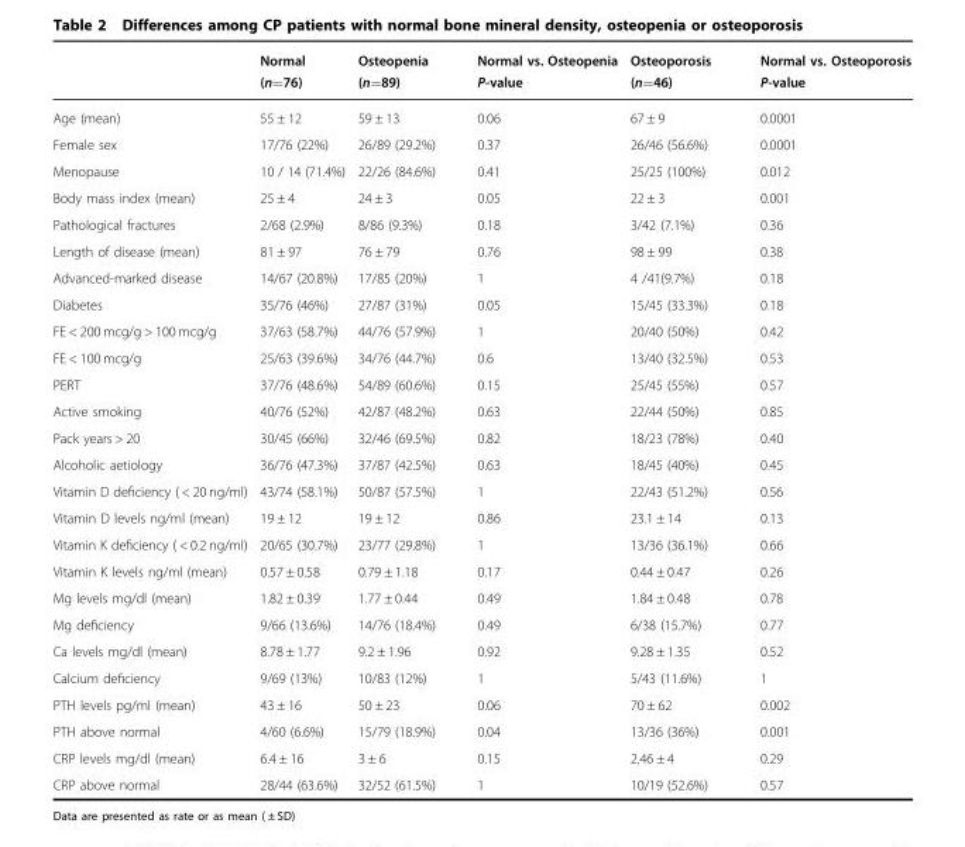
<table><thead><tr><td></td><td>Normal (n=76)</td><td>Osteopenia (n=89)</td><td>Normal vs. Osteopenia P-value</td><td>Osteoporosis (n=46)</td><td>Normal vs. Osteoporosis P-value</td></tr></thead><tbody><tr><td>Age (mean)</td><td>55 ± 12</td><td>59 ± 13</td><td>0.06</td><td>67 ± 9</td><td>0.0001</td></tr><tr><td>Female sex</td><td>17/76 (22%)</td><td>26/89 (29.2%)</td><td>0.37</td><td>26/46 (56.6%)</td><td>0.0001</td></tr><tr><td>Menopause</td><td>10 / 14 (71.4%)</td><td>22/26 (84.6%)</td><td>0.41</td><td>25/25 (100%)</td><td>0.012</td></tr><tr><td>Body mass index (mean)</td><td>25 ± 4</td><td>24 ± 3</td><td>0.05</td><td>22 ± 3</td><td>0.001</td></tr><tr><td>Pathological fractures</td><td>2/68 (2.9%)</td><td>8/86 (9.3%)</td><td>0.18</td><td>3/42 (7.1%)</td><td>0.36</td></tr><tr><td>Length of disease (mean)</td><td>81 ± 97</td><td>76 ± 79</td><td>0.76</td><td>98 ± 99</td><td>0.38</td></tr><tr><td>Advanced-marked disease</td><td>14/67 (20.8%)</td><td>17/85 (20%)</td><td>1</td><td>4 /41(9.7%)</td><td>0.18</td></tr><tr><td>Diabetes</td><td>35/76 (46%)</td><td>27/87 (31%)</td><td>0.05</td><td>15/45 (33.3%)</td><td>0.18</td></tr><tr><td>FE &lt; 200 mcg/g &gt; 100 mcg/g</td><td>37/63 (58.7%)</td><td>44/76 (57.9%)</td><td>1</td><td>20/40 (50%)</td><td>0.42</td></tr><tr><td>FE &lt; 100 mcg/g</td><td>25/63 (39.6%)</td><td>34/76 (44.7%)</td><td>0.6</td><td>13/40 (32.5%)</td><td>0.53</td></tr><tr><td>PERT</td><td>37/76 (48.6%)</td><td>54/89 (60.6%)</td><td>0.15</td><td>25/45 (55%)</td><td>0.57</td></tr><tr><td>Active smoking</td><td>40/76 (52%)</td><td>42/87 (48.2%)</td><td>0.63</td><td>22/44 (50%)</td><td>0.85</td></tr><tr><td>Pack years &gt; 20</td><td>30/45 (66%)</td><td>32/46 (69.5%)</td><td>0.82</td><td>18/23 (78%)</td><td>0.40</td></tr><tr><td>Alcoholic aetiology</td><td>36/76 (47.3%)</td><td>37/87 (42.5%)</td><td>0.63</td><td>18/45 (40%)</td><td>0.45</td></tr><tr><td>Vitamin D deficiency ( &lt; 20 ng/ml)</td><td>43/74 (58.1%)</td><td>50/87 (57.5%)</td><td>1</td><td>22/43 (51.2%)</td><td>0.56</td></tr><tr><td>Vitamin D levels ng/ml (mean)</td><td>19 ± 12</td><td>19 ± 12</td><td>0.86</td><td>23.1 ± 14</td><td>0.13</td></tr><tr><td>Vitamin K deficiency ( &lt; 0.2 ng/ml)</td><td>20/65 (30.7%)</td><td>23/77 (29.8%)</td><td>1</td><td>13/36 (36.1%)</td><td>0.66</td></tr><tr><td>Vitamin K levels ng/ml (mean)</td><td>0.57 ± 0.58</td><td>0.79 ± 1.18</td><td>0.17</td><td>0.44 ± 0.47</td><td>0.26</td></tr><tr><td>Mg levels mg/dl (mean)</td><td>1.82 ± 0.39</td><td>1.77 ± 0.44</td><td>0.49</td><td>1.84 ± 0.48</td><td>0.78</td></tr><tr><td>Mg deficiency</td><td>9/66 (13.6%)</td><td>14/76 (18.4%)</td><td>0.49</td><td>6/38 (15.7%)</td><td>0.77</td></tr><tr><td>Ca levels mg/dl (mean)</td><td>8.78 ± 1.77</td><td>9.2 ± 1.96</td><td>0.92</td><td>9.28 ± 1.35</td><td>0.52</td></tr><tr><td>Calcium deficiency</td><td>9/69 (13%)</td><td>10/83 (12%)</td><td>1</td><td>5/43 (11.6%)</td><td>1</td></tr><tr><td>PTH levels pg/ml (mean)</td><td>43 ± 16</td><td>50 ± 23</td><td>0.06</td><td>70 ± 62</td><td>0.002</td></tr><tr><td>PTH above normal</td><td>4/60 (6.6%)</td><td>15/79 (18.9%)</td><td>0.04</td><td>13/36 (36%)</td><td>0.001</td></tr><tr><td>CRP levels mg/dl (mean)</td><td>6.4 ± 16</td><td>3 ± 6</td><td>0.15</td><td>2.46 ± 4</td><td>0.29</td></tr><tr><td>CRP above normal</td><td>28/44 (63.6%)</td><td>32/52 (61.5%)</td><td>1</td><td>10/19 (52.6%)</td><td>0.57</td></tr></tbody></table>